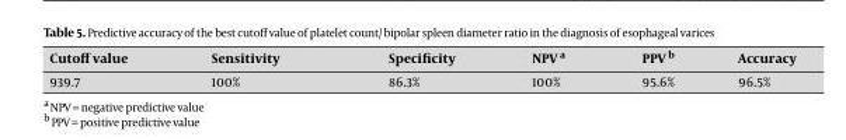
<table><thead><tr><td>Cutoff value</td><td>Sensitivity</td><td>Specificity</td><td>NPV a</td><td>PPV b</td><td>Accuracy</td></tr></thead><tbody><tr><td>939.7</td><td>100%</td><td>86.3%</td><td>100%</td><td>95.6%</td><td>96.5%</td></tr></tbody></table>